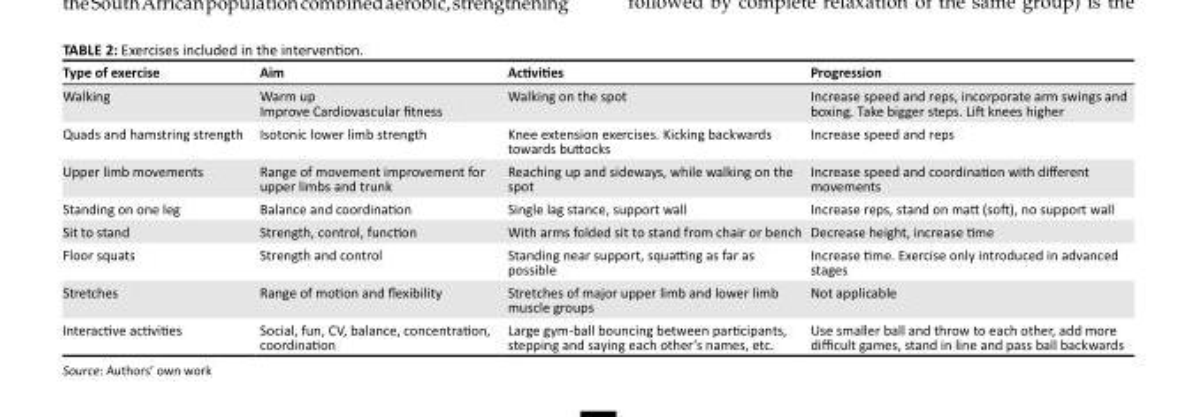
<table><thead><tr><td>Type of exercise</td><td>Aim</td><td>Activities</td><td>Progression</td></tr></thead><tbody><tr><td>Walking</td><td>Warm up Improve Cardiovascular fitness</td><td>Walking on the spot</td><td>Increase speed and reps, incorporate arm swings and boxing. Take bigger steps. Lift knees higher</td></tr><tr><td>Quads and hamstring strength</td><td>Isotonic lower limb strength</td><td>Knee extension exercises. Kicking backwards towards buttocks</td><td>Increase speed and reps</td></tr><tr><td>Upper limb movements</td><td>Range of movement improvement for upper limbs and trunk</td><td>Reaching up and sideways, while walking on the spot</td><td>Increase speed and coordination with different movements</td></tr><tr><td>Standing on one leg</td><td>Balance and coordination</td><td>Single lag stance, support wall</td><td>Increase reps, stand on matt (soft), no support wall</td></tr><tr><td>Sit to stand</td><td>Strength, control, function</td><td>With arms folded sit to stand from chair or bench</td><td>Decrease height, increase time</td></tr><tr><td>Floor squats</td><td>Strength and control</td><td>Standing near support, squatting as far as possible</td><td>Increase time. Exercise only introduced in advanced stages</td></tr><tr><td>Stretches</td><td>Range of motion and flexibility</td><td>Stretches of major upper limb and lower limb muscle groups</td><td>Not applicable</td></tr><tr><td>Interactive activities</td><td>Social, fun, CV, balance, concentration, coordination</td><td>Large gym-ball bouncing between participants, stepping and saying each other’s names, etc.</td><td>Use smaller ball and throw to each other, add more difficult games, stand in line and pass ball backwards</td></tr></tbody></table>